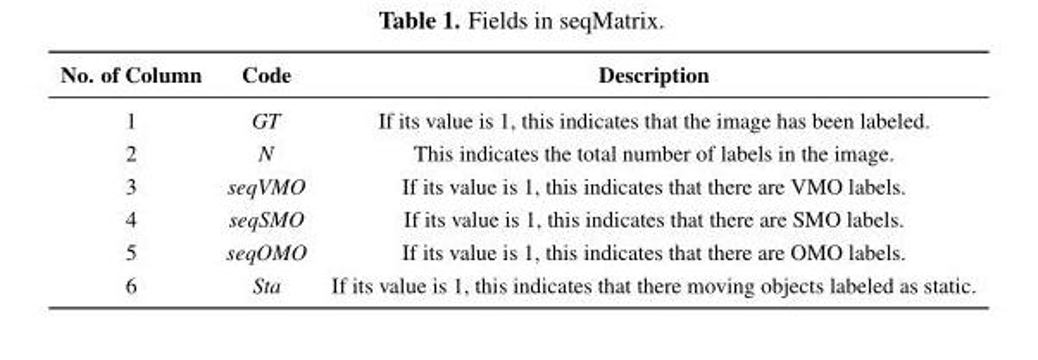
<table><thead><tr><td>No. of Column</td><td>Code</td><td>Description</td></tr></thead><tbody><tr><td>1</td><td>GT</td><td>If its value is 1, this indicates that the image has been labeled.</td></tr><tr><td>2</td><td>N</td><td>This indicates the total number of labels in the image.</td></tr><tr><td>3</td><td>seqVMO</td><td>If its value is 1, this indicates that there are VMO labels.</td></tr><tr><td>4</td><td>seqSMO</td><td>If its value is 1, this indicates that there are SMO labels.</td></tr><tr><td>5</td><td>seqOMO</td><td>If its value is 1, this indicates that there are OMO labels.</td></tr><tr><td>6</td><td>Sta</td><td>If its value is 1, this indicates that there moving objects labeled as static.</td></tr></tbody></table>